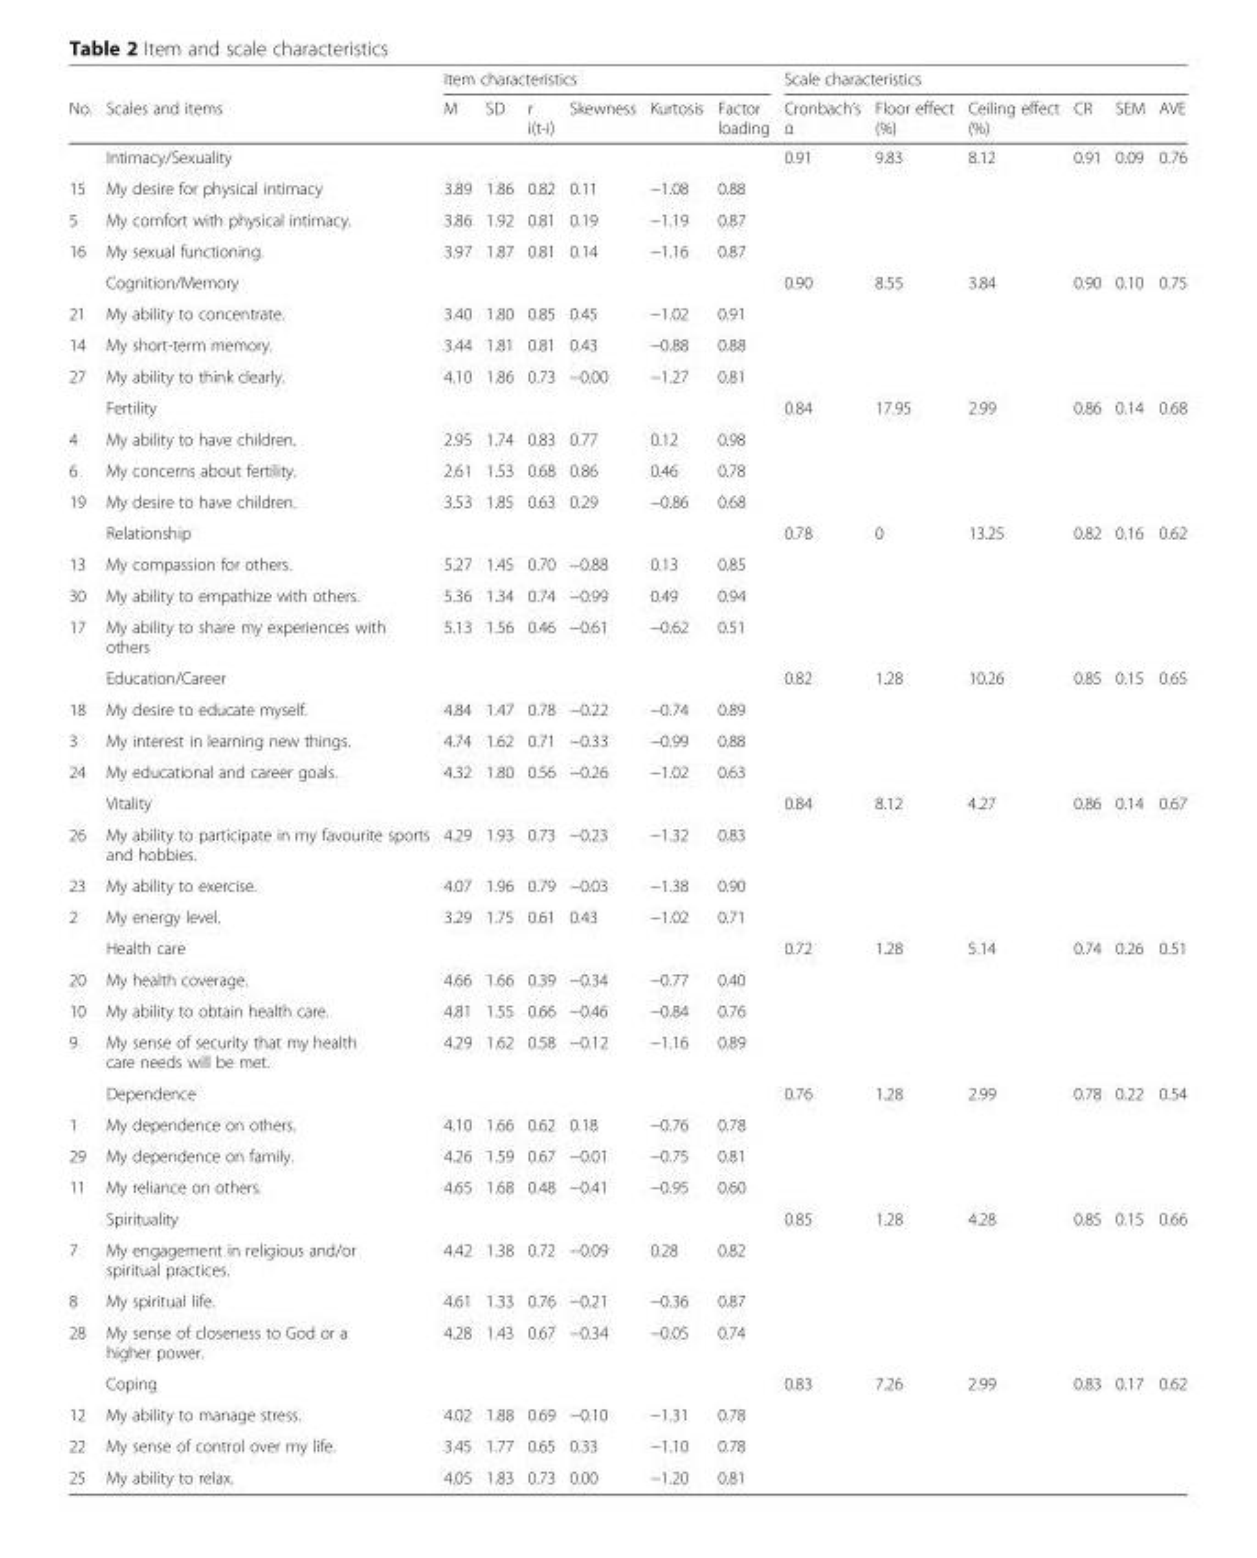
<table><thead><tr><td rowspan="2">No.</td><td rowspan="2">Scales and items</td><td colspan="6">Item characteristics</td><td colspan="6">Scale characteristics</td></tr><tr><td>M</td><td>SD</td><td>r i(t-i)</td><td>Skewness</td><td>Kurtosis</td><td>Factor loading</td><td>Cronbach’s α</td><td>Floor effect (%)</td><td>Ceiling effect (%)</td><td>CR</td><td>SEM</td><td>AVE</td></tr></thead><tbody><tr><td></td><td>Intimacy/Sexuality</td><td></td><td></td><td></td><td></td><td></td><td></td><td>0.91</td><td>9.83</td><td>8.12</td><td>0.91</td><td>0.09</td><td>0.76</td></tr><tr><td>15</td><td>My desire for physical intimacy</td><td>3.89</td><td>1.86</td><td>0.82</td><td>0.11</td><td>−1.08</td><td>0.88</td><td></td><td></td><td></td><td></td><td></td><td></td></tr><tr><td>5</td><td>My comfort with physical intimacy.</td><td>3.86</td><td>1.92</td><td>0.81</td><td>0.19</td><td>−1.19</td><td>0.87</td><td></td><td></td><td></td><td></td><td></td><td></td></tr><tr><td rowspan="2">16</td><td>My sexual functioning.</td><td>3.97</td><td>1.87</td><td>0.81</td><td>0.14</td><td>−1.16</td><td>0.87</td><td></td><td></td><td></td><td></td><td></td><td></td></tr><tr><td>Cognition/Memory</td><td></td><td></td><td></td><td></td><td></td><td></td><td>0.90</td><td>8.55</td><td>3.84</td><td>0.90</td><td>0.10</td><td>0.75</td></tr><tr><td>21</td><td>My ability to concentrate.</td><td>3.40</td><td>1.80</td><td>0.85</td><td>0.45</td><td>−1.02</td><td>0.91</td><td></td><td></td><td></td><td></td><td></td><td></td></tr><tr><td>14</td><td>My short-term memory.</td><td>3.44</td><td>1.81</td><td>0.81</td><td>0.43</td><td>−0.88</td><td>0.88</td><td></td><td></td><td></td><td></td><td></td><td></td></tr><tr><td rowspan="2">27</td><td>My ability to think clearly.</td><td>4.10</td><td>1.86</td><td>0.73</td><td>−0.00</td><td>−1.27</td><td>0.81</td><td></td><td></td><td></td><td></td><td></td><td></td></tr><tr><td>Fertility</td><td></td><td></td><td></td><td></td><td></td><td></td><td>0.84</td><td>17.95</td><td>2.99</td><td>0.86</td><td>0.14</td><td>0.68</td></tr><tr><td>4</td><td>My ability to have children.</td><td>2.95</td><td>1.74</td><td>0.83</td><td>0.77</td><td>0.12</td><td>0.98</td><td></td><td></td><td></td><td></td><td></td><td></td></tr><tr><td>6</td><td>My concerns about fertility.</td><td>2.61</td><td>1.53</td><td>0.68</td><td>0.86</td><td>0.46</td><td>0.78</td><td></td><td></td><td></td><td></td><td></td><td></td></tr><tr><td rowspan="2">19</td><td>My desire to have children.</td><td>3.53</td><td>1.85</td><td>0.63</td><td>0.29</td><td>−0.86</td><td>0.68</td><td></td><td></td><td></td><td></td><td></td><td></td></tr><tr><td>Relationship</td><td></td><td></td><td></td><td></td><td></td><td></td><td>0.78</td><td>0</td><td>13.25</td><td>0.82</td><td>0.16</td><td>0.62</td></tr><tr><td>13</td><td>My compassion for others.</td><td>5.27</td><td>1.45</td><td>0.70</td><td>−0.88</td><td>0.13</td><td>0.85</td><td></td><td></td><td></td><td></td><td></td><td></td></tr><tr><td>30</td><td>My ability to empathize with others.</td><td>5.36</td><td>1.34</td><td>0.74</td><td>−0.99</td><td>0.49</td><td>0.94</td><td></td><td></td><td></td><td></td><td></td><td></td></tr><tr><td rowspan="2">17</td><td>My ability to share my experiences with others</td><td>5.13</td><td>1.56</td><td>0.46</td><td>−0.61</td><td>−0.62</td><td>0.51</td><td></td><td></td><td></td><td></td><td></td><td></td></tr><tr><td>Education/Career</td><td></td><td></td><td></td><td></td><td></td><td></td><td>0.82</td><td>1.28</td><td>10.26</td><td>0.85</td><td>0.15</td><td>0.65</td></tr><tr><td>18</td><td>My desire to educate myself.</td><td>4.84</td><td>1.47</td><td>0.78</td><td>−0.22</td><td>−0.74</td><td>0.89</td><td></td><td></td><td></td><td></td><td></td><td></td></tr><tr><td>3</td><td>My interest in learning new things.</td><td>4.74</td><td>1.62</td><td>0.71</td><td>−0.33</td><td>−0.99</td><td>0.88</td><td></td><td></td><td></td><td></td><td></td><td></td></tr><tr><td rowspan="2">24</td><td>My educational and career goals.</td><td>4.32</td><td>1.80</td><td>0.56</td><td>−0.26</td><td>−1.02</td><td>0.63</td><td></td><td></td><td></td><td></td><td></td><td></td></tr><tr><td>Vitality</td><td></td><td></td><td></td><td></td><td></td><td></td><td>0.84</td><td>8.12</td><td>4.27</td><td>0.86</td><td>0.14</td><td>0.67</td></tr><tr><td>26</td><td>My ability to participate in my favourite sports and hobbies.</td><td>4.29</td><td>1.93</td><td>0.73</td><td>−0.23</td><td>−1.32</td><td>0.83</td><td></td><td></td><td></td><td></td><td></td><td></td></tr><tr><td>23</td><td>My ability to exercise.</td><td>4.07</td><td>1.96</td><td>0.79</td><td>−0.03</td><td>−1.38</td><td>0.90</td><td></td><td></td><td></td><td></td><td></td><td></td></tr><tr><td rowspan="2">2</td><td>My energy level.</td><td>3.29</td><td>1.75</td><td>0.61</td><td>0.43</td><td>−1.02</td><td>0.71</td><td></td><td></td><td></td><td></td><td></td><td></td></tr><tr><td>Health care</td><td></td><td></td><td></td><td></td><td></td><td></td><td>0.72</td><td>1.28</td><td>5.14</td><td>0.74</td><td>0.26</td><td>0.51</td></tr><tr><td>20</td><td>My health coverage.</td><td>4.66</td><td>1.66</td><td>0.39</td><td>−0.34</td><td>−0.77</td><td>0.40</td><td></td><td></td><td></td><td></td><td></td><td></td></tr><tr><td>10</td><td>My ability to obtain health care.</td><td>4.81</td><td>1.55</td><td>0.66</td><td>−0.46</td><td>−0.84</td><td>0.76</td><td></td><td></td><td></td><td></td><td></td><td></td></tr><tr><td rowspan="2">9</td><td>My sense of security that my health care needs will be met.</td><td>4.29</td><td>1.62</td><td>0.58</td><td>−0.12</td><td>−1.16</td><td>0.89</td><td></td><td></td><td></td><td></td><td></td><td></td></tr><tr><td>Dependence</td><td></td><td></td><td></td><td></td><td></td><td></td><td>0.76</td><td>1.28</td><td>2.99</td><td>0.78</td><td>0.22</td><td>0.54</td></tr><tr><td>1</td><td>My dependence on others.</td><td>4.10</td><td>1.66</td><td>0.62</td><td>0.18</td><td>−0.76</td><td>0.78</td><td></td><td></td><td></td><td></td><td></td><td></td></tr><tr><td>29</td><td>My dependence on family.</td><td>4.26</td><td>1.59</td><td>0.67</td><td>−0.01</td><td>−0.75</td><td>0.81</td><td></td><td></td><td></td><td></td><td></td><td></td></tr><tr><td rowspan="2">11</td><td>My reliance on others.</td><td>4.65</td><td>1.68</td><td>0.48</td><td>−0.41</td><td>−0.95</td><td>0.60</td><td></td><td></td><td></td><td></td><td></td><td></td></tr><tr><td>Spirituality</td><td></td><td></td><td></td><td></td><td></td><td></td><td>0.85</td><td>1.28</td><td>4.28</td><td>0.85</td><td>0.15</td><td>0.66</td></tr><tr><td>7</td><td>My engagement in religious and/or spiritual practices.</td><td>4.42</td><td>1.38</td><td>0.72</td><td>−0.09</td><td>0.28</td><td>0.82</td><td></td><td></td><td></td><td></td><td></td><td></td></tr><tr><td>8</td><td>My spiritual life.</td><td>4.61</td><td>1.33</td><td>0.76</td><td>−0.21</td><td>−0.36</td><td>0.87</td><td></td><td></td><td></td><td></td><td></td><td></td></tr><tr><td rowspan="2">28</td><td>My sense of closeness to God or a higher power.</td><td>4.28</td><td>1.43</td><td>0.67</td><td>−0.34</td><td>−0.05</td><td>0.74</td><td></td><td></td><td></td><td></td><td></td><td></td></tr><tr><td>Coping</td><td></td><td></td><td></td><td></td><td></td><td></td><td>0.83</td><td>7.26</td><td>2.99</td><td>0.83</td><td>0.17</td><td>0.62</td></tr><tr><td>12</td><td>My ability to manage stress.</td><td>4.02</td><td>1.88</td><td>0.69</td><td>−0.10</td><td>−1.31</td><td>0.78</td><td></td><td></td><td></td><td></td><td></td><td></td></tr><tr><td>22</td><td>My sense of control over my life.</td><td>3.45</td><td>1.77</td><td>0.65</td><td>0.33</td><td>−1.10</td><td>0.78</td><td></td><td></td><td></td><td></td><td></td><td></td></tr><tr><td>25</td><td>My ability to relax.</td><td>4.05</td><td>1.83</td><td>0.73</td><td>0.00</td><td>−1.20</td><td>0.81</td><td></td><td></td><td></td><td></td><td></td><td></td></tr></tbody></table>